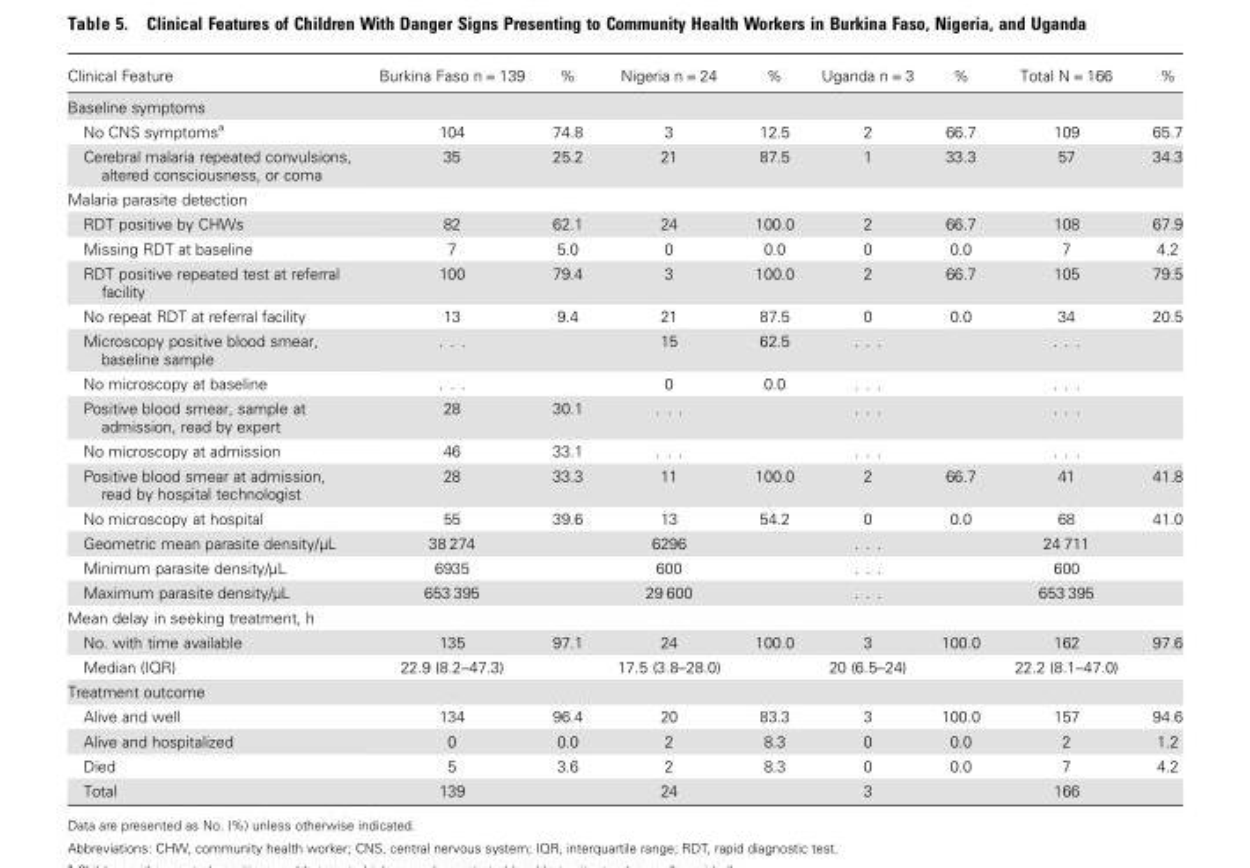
<table><thead><tr><td>Clinical Feature</td><td>Burkina Faso n = 139</td><td>%</td><td>Nigeria n = 24</td><td>%</td><td>Uganda n = 3</td><td>%</td><td>Total N = 166</td><td>%</td></tr></thead><tbody><tr><td colspan="9">Baseline symptoms</td></tr><tr><td>No CNS symptoms<sup>a</sup></td><td>104</td><td>74.8</td><td>3</td><td>12.5</td><td>2</td><td>66.7</td><td>109</td><td>65.7</td></tr><tr><td>Cerebral malaria repeated convulsions, altered consciousness, or coma</td><td>35</td><td>25.2</td><td>21</td><td>87.5</td><td>1</td><td>33.3</td><td>57</td><td>34.3</td></tr><tr><td colspan="9">Malaria parasite detection</td></tr><tr><td>RDT positive by CHWs</td><td>82</td><td>62.1</td><td>24</td><td>100.0</td><td>2</td><td>66.7</td><td>108</td><td>67.9</td></tr><tr><td>Missing RDT at baseline</td><td>7</td><td>5.0</td><td>0</td><td>0.0</td><td>0</td><td>0.0</td><td>7</td><td>4.2</td></tr><tr><td>RDT positive repeated test at referral facility</td><td>100</td><td>79.4</td><td>3</td><td>100.0</td><td>2</td><td>66.7</td><td>105</td><td>79.5</td></tr><tr><td>No repeat RDT at referral facility</td><td>13</td><td>9.4</td><td>21</td><td>87.5</td><td>0</td><td>0.0</td><td>34</td><td>20.5</td></tr><tr><td>Microscopy positive blood smear, baseline sample</td><td>. . .</td><td></td><td>15</td><td>62.5</td><td>. . .</td><td></td><td>. . .</td><td></td></tr><tr><td>No microscopy at baseline</td><td>. . .</td><td></td><td>0</td><td>0.0</td><td>. . .</td><td></td><td>. . .</td><td></td></tr><tr><td>Positive blood smear, sample at admission, read by expert</td><td>28</td><td>30.1</td><td>. . .</td><td></td><td>. . .</td><td></td><td>. . .</td><td></td></tr><tr><td>No microscopy at admission</td><td>46</td><td>33.1</td><td>. . .</td><td></td><td>. . .</td><td></td><td>. . .</td><td></td></tr><tr><td>Positive blood smear at admission, read by hospital technologist</td><td>28</td><td>33.3</td><td>11</td><td>100.0</td><td>2</td><td>66.7</td><td>41</td><td>41.8</td></tr><tr><td>No microscopy at hospital</td><td>55</td><td>39.6</td><td>13</td><td>54.2</td><td>0</td><td>0.0</td><td>68</td><td>41.0</td></tr><tr><td>Geometric mean parasite density/µL</td><td>38 274</td><td></td><td>6296</td><td></td><td>. . .</td><td></td><td>24 711</td><td></td></tr><tr><td>Minimum parasite density/µL</td><td>6935</td><td></td><td>600</td><td></td><td>. . .</td><td></td><td>600</td><td></td></tr><tr><td>Maximum parasite density/µL</td><td>653 395</td><td></td><td>29 600</td><td></td><td>. . .</td><td></td><td>653 395</td><td></td></tr><tr><td colspan="9">Mean delay in seeking treatment, h</td></tr><tr><td>No. with time available</td><td>135</td><td>97.1</td><td>24</td><td>100.0</td><td>3</td><td>100.0</td><td>162</td><td>97.6</td></tr><tr><td>Median (IQR)</td><td>22.9 (8.2–47.3)</td><td></td><td>17.5 (3.8–28.0)</td><td></td><td>20 (6.5–24)</td><td></td><td>22.2 (8.1–47.0)</td><td></td></tr><tr><td colspan="9">Treatment outcome</td></tr><tr><td>Alive and well</td><td>134</td><td>96.4</td><td>20</td><td>83.3</td><td>3</td><td>100.0</td><td>157</td><td>94.6</td></tr><tr><td>Alive and hospitalized</td><td>0</td><td>0.0</td><td>2</td><td>8.3</td><td>0</td><td>0.0</td><td>2</td><td>1.2</td></tr><tr><td>Died</td><td>5</td><td>3.6</td><td>2</td><td>8.3</td><td>0</td><td>0.0</td><td>7</td><td>4.2</td></tr><tr><td>Total</td><td>139</td><td></td><td>24</td><td></td><td>3</td><td></td><td>166</td><td></td></tr></tbody></table>